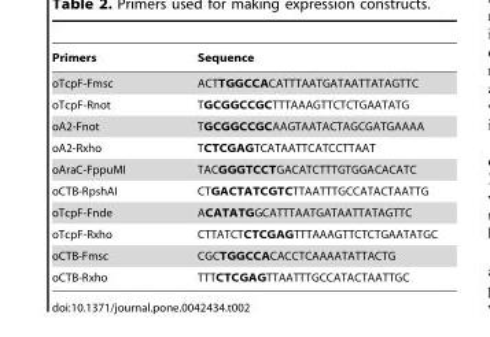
<table><thead><tr><td>Primers</td><td>Sequence</td></tr></thead><tbody><tr><td>oTcpF-Fmsc</td><td>ACTTGGCCACATTTAATGATAATTATAGTTC</td></tr><tr><td>oTcpF-Rnot</td><td>TGCGGCCGCTTTAAAGTTCTCTGAATATG</td></tr><tr><td>oA2-Fnot</td><td>TGCGGCCGCAAGTAATACTAGCGATGAAAA</td></tr><tr><td>oA2-Rxho</td><td>TCTCGAGTCATAATTCATCCTTAAT</td></tr><tr><td>oAraC-FppuMI</td><td>TACGGGTCCTGACATCTTTGTGGACACATC</td></tr><tr><td>oCTB-RpshAI</td><td>CTGACTATCGTCTTAATTTGCCATACTAATTG</td></tr><tr><td>oTcpF-Fnde</td><td>ACATATGGCATTTAATGATAATTATAGTTC</td></tr><tr><td>oTcpF-Rxho</td><td>CTTATCTCTCGAGTTTAAAGTTCTCTGAATATGC</td></tr><tr><td>oCTB-Fmsc</td><td>CGCTGGCCACACCTCAAAATATTACTG</td></tr><tr><td>oCTB-Rxho</td><td>TTTCTCGAGTTAATTTGCCATACTAATTGC</td></tr></tbody></table>